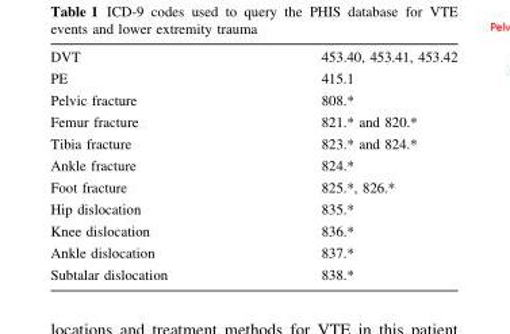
<table><tbody><tr><td>DVT</td><td>453.40, 453.41, 453.42</td></tr><tr><td>PE</td><td>415.1</td></tr><tr><td>Pelvic fracture</td><td>808.*</td></tr><tr><td>Femur fracture</td><td>821.* and 820.*</td></tr><tr><td>Tibia fracture</td><td>823.* and 824.*</td></tr><tr><td>Ankle fracture</td><td>824.*</td></tr><tr><td>Foot fracture</td><td>825.*, 826.*</td></tr><tr><td>Hip dislocation</td><td>835.*</td></tr><tr><td>Knee dislocation</td><td>836.*</td></tr><tr><td>Ankle dislocation</td><td>837.*</td></tr><tr><td>Subtalar dislocation</td><td>838.*</td></tr></tbody></table>